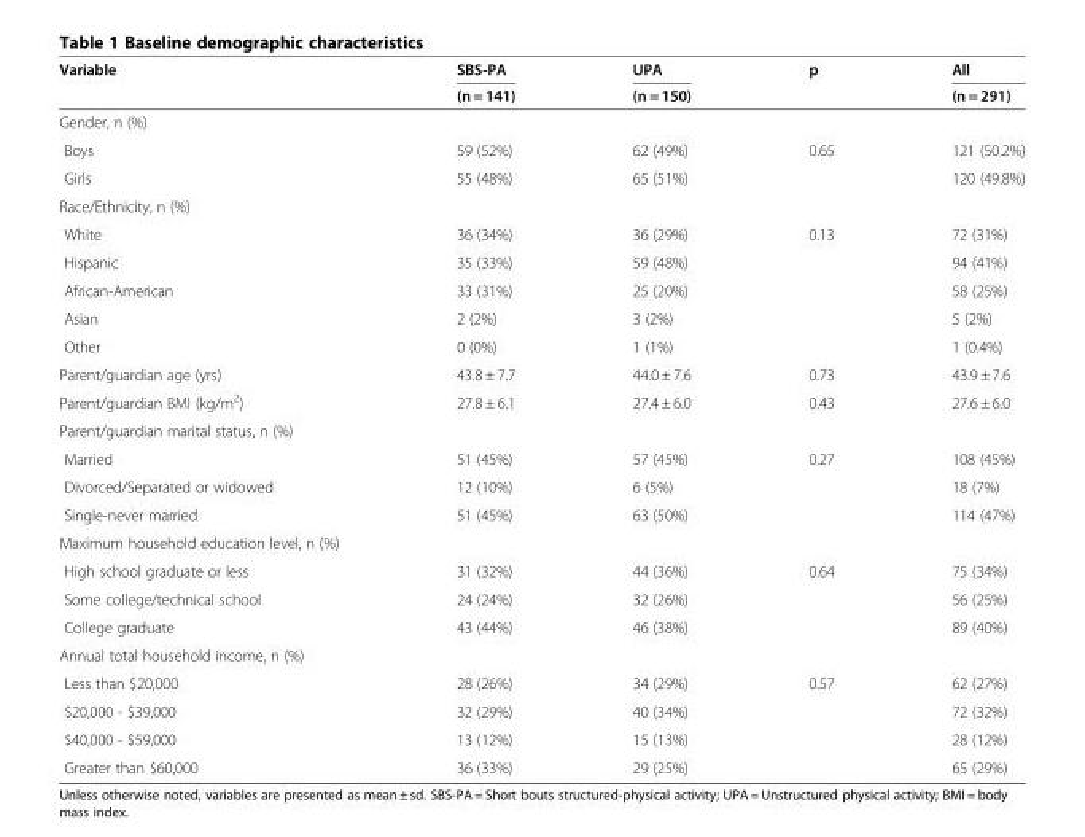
<table><thead><tr><td rowspan="2">Variable</td><td rowspan="2">SBS-PA (n = 141)</td><td rowspan="2">UPA (n = 150)</td><td rowspan="2">p</td><td rowspan="2">All (n = 291)</td></tr><tr></tr></thead><tbody><tr><td colspan="5">Gender, n (%)</td></tr><tr><td>Boys</td><td>59 (52%)</td><td>62 (49%)</td><td>0.65</td><td>121 (50.2%)</td></tr><tr><td>Girls</td><td>55 (48%)</td><td>65 (51%)</td><td></td><td>120 (49.8%)</td></tr><tr><td colspan="5">Race/Ethnicity, n (%)</td></tr><tr><td>White</td><td>36 (34%)</td><td>36 (29%)</td><td>0.13</td><td>72 (31%)</td></tr><tr><td>Hispanic</td><td>35 (33%)</td><td>59 (48%)</td><td></td><td>94 (41%)</td></tr><tr><td>African-American</td><td>33 (31%)</td><td>25 (20%)</td><td></td><td>58 (25%)</td></tr><tr><td>Asian</td><td>2 (2%)</td><td>3 (2%)</td><td></td><td>5 (2%)</td></tr><tr><td>Other</td><td>0 (0%)</td><td>1 (1%)</td><td></td><td>1 (0.4%)</td></tr><tr><td>Parent/guardian age (yrs)</td><td>43.8 ± 7.7</td><td>44.0 ± 7.6</td><td>0.73</td><td>43.9 ± 7.6</td></tr><tr><td>Parent/guardian BMI (kg/m<sup>2</sup>)</td><td>27.8 ± 6.1</td><td>27.4 ± 6.0</td><td>0.43</td><td>27.6 ± 6.0</td></tr><tr><td colspan="5">Parent/guardian marital status, n (%)</td></tr><tr><td>Married</td><td>51 (45%)</td><td>57 (45%)</td><td>0.27</td><td>108 (45%)</td></tr><tr><td>Divorced/Separated or widowed</td><td>12 (10%)</td><td>6 (5%)</td><td></td><td>18 (7%)</td></tr><tr><td>Single-never married</td><td>51 (45%)</td><td>63 (50%)</td><td></td><td>114 (47%)</td></tr><tr><td colspan="5">Maximum household education level, n (%)</td></tr><tr><td>High school graduate or less</td><td>31 (32%)</td><td>44 (36%)</td><td>0.64</td><td>75 (34%)</td></tr><tr><td>Some college/technical school</td><td>24 (24%)</td><td>32 (26%)</td><td></td><td>56 (25%)</td></tr><tr><td>College graduate</td><td>43 (44%)</td><td>46 (38%)</td><td></td><td>89 (40%)</td></tr><tr><td colspan="5">Annual total household income, n (%)</td></tr><tr><td>Less than $20,000</td><td>28 (26%)</td><td>34 (29%)</td><td>0.57</td><td>62 (27%)</td></tr><tr><td>$20,000 - $39,000</td><td>32 (29%)</td><td>40 (34%)</td><td></td><td>72 (32%)</td></tr><tr><td>$40,000 - $59,000</td><td>13 (12%)</td><td>15 (13%)</td><td></td><td>28 (12%)</td></tr><tr><td>Greater than $60,000</td><td>36 (33%)</td><td>29 (25%)</td><td></td><td>65 (29%)</td></tr></tbody></table>